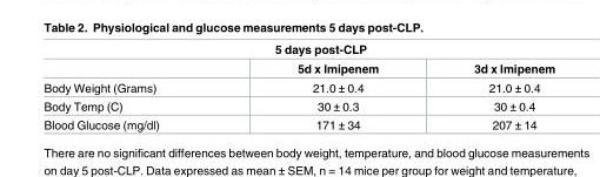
<table><thead><tr><td colspan="3">5 days post-CLP</td></tr><tr><td></td><td>5d x Imipenem</td><td>3d x Imipenem</td></tr></thead><tbody><tr><td>Body Weight (Grams)</td><td>21.0 ± 0.4</td><td>21.0 ± 0.4</td></tr><tr><td>Body Temp (C)</td><td>30 ± 0.3</td><td>30 ± 0.4</td></tr><tr><td>Blood Glucose (mg/dl)</td><td>171 ± 34</td><td>207 ± 14</td></tr></tbody></table>